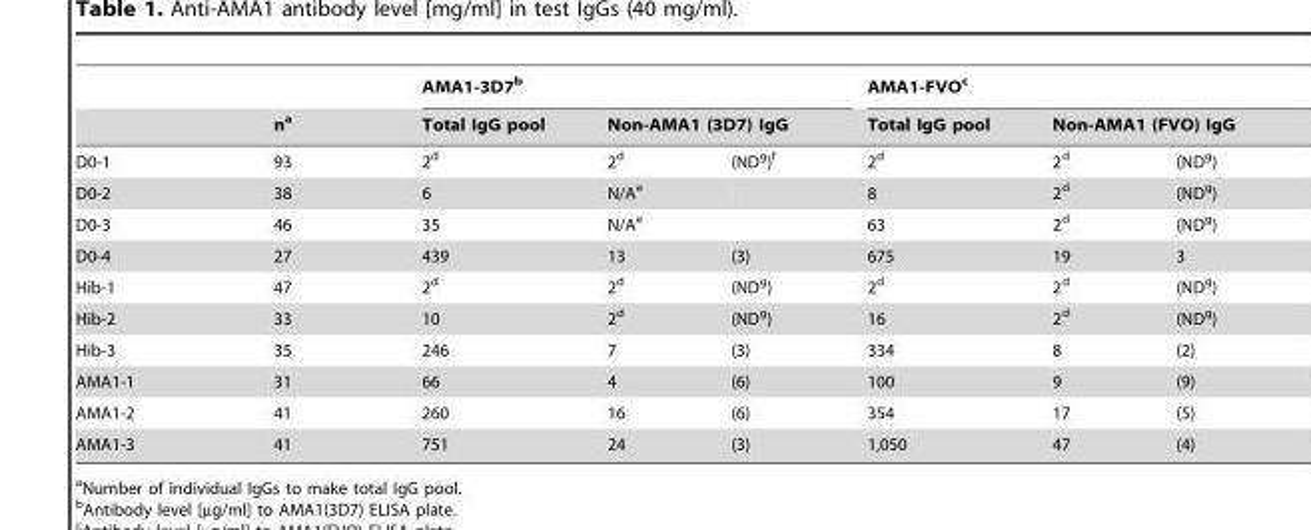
<table><thead><tr><td rowspan="3">D0-1</td><td rowspan="3">n<sup>a</sup> 93</td><td colspan="3">AMA1-3D7<sup>b</sup></td><td colspan="3">AMA1-FVO<sup>c</sup></td></tr><tr><td rowspan="2">Total IgG pool 2<sup>d</sup></td><td colspan="2">Non-AMA1 (3D7) IgG</td><td rowspan="2">Total IgG pool 2<sup>d</sup></td><td colspan="2">Non-AMA1 (FVO) IgG</td></tr><tr><td>2<sup>d</sup></td><td>(ND<sup>g</sup>)<sup>f</sup></td><td>2<sup>d</sup></td><td>(ND<sup>g</sup>)</td></tr></thead><tbody><tr><td>D0-2</td><td>38</td><td>6</td><td>N/A<sup>e</sup></td><td></td><td>8</td><td>2<sup>d</sup></td><td>(ND<sup>g</sup>)</td></tr><tr><td>D0-3</td><td>46</td><td>35</td><td>N/A<sup>e</sup></td><td></td><td>63</td><td>2<sup>d</sup></td><td>(ND<sup>g</sup>)</td></tr><tr><td>D0-4</td><td>27</td><td>439</td><td>13</td><td>(3)</td><td>675</td><td>19</td><td>3</td></tr><tr><td>Hib-1</td><td>47</td><td>2<sup>d</sup></td><td>2<sup>d</sup></td><td>(ND<sup>g</sup>)</td><td>2<sup>d</sup></td><td>2<sup>d</sup></td><td>(ND<sup>g</sup>)</td></tr><tr><td>Hib-2</td><td>33</td><td>10</td><td>2<sup>d</sup></td><td>(ND<sup>g</sup>)</td><td>16</td><td>2<sup>d</sup></td><td>(ND<sup>g</sup>)</td></tr><tr><td>Hib-3</td><td>35</td><td>246</td><td>7</td><td>(3)</td><td>334</td><td>8</td><td>(2)</td></tr><tr><td>AMA1-1</td><td>31</td><td>66</td><td>4</td><td>(6)</td><td>100</td><td>9</td><td>(9)</td></tr><tr><td>AMA1-2</td><td>41</td><td>260</td><td>16</td><td>(6)</td><td>354</td><td>17</td><td>(5)</td></tr><tr><td>AMA1-3</td><td>41</td><td>751</td><td>24</td><td>(3)</td><td>1,050</td><td>47</td><td>(4)</td></tr></tbody></table>